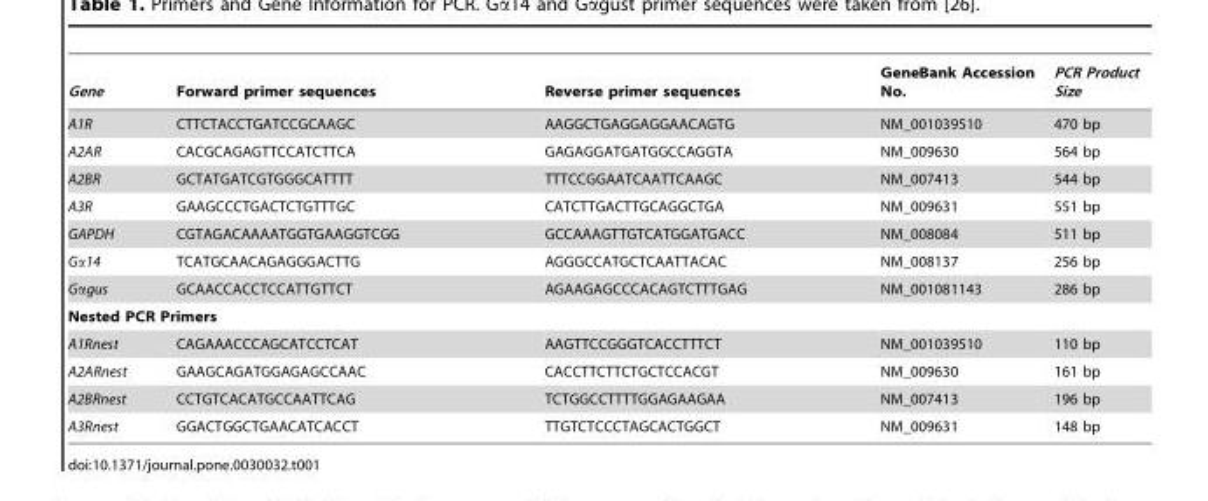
<table><thead><tr><td>Gene</td><td>Forward primer sequences</td><td>Reverse primer sequences</td><td>GeneBank Accession No.</td><td>PCR Product Size</td></tr></thead><tbody><tr><td>A1R</td><td>CTTCTACCTGATCCGCAAGC</td><td>AAGGCTGAGGAGGAACAGTG</td><td>NM_001039510</td><td>470 bp</td></tr><tr><td>A2AR</td><td>CACGCAGAGTTCCATCTTCA</td><td>GAGAGGATGATGGCCAGGTA</td><td>NM_009630</td><td>564 bp</td></tr><tr><td>A2BR</td><td>GCTATGATCGTGGGCATTTT</td><td>TTTCCGGAATCAATTCAAGC</td><td>NM_007413</td><td>544 bp</td></tr><tr><td>A3R</td><td>GAAGCCCTGACTCTGTTTGC</td><td>CATCTTGACTTGCAGGCTGA</td><td>NM_009631</td><td>551 bp</td></tr><tr><td>GAPDH</td><td>CGTAGACAAAATGGTGAAGGTCGG</td><td>GCCAAAGTTGTCATGGATGACC</td><td>NM_008084</td><td>511 bp</td></tr><tr><td>Gα14</td><td>TCATGCAACAGAGGGACTTG</td><td>AGGGCCATGCTCAATTACAC</td><td>NM_008137</td><td>256 bp</td></tr><tr><td>Gαgus</td><td>GCAACCACCTCCATTGTTCT</td><td>AGAAGAGCCCACAGTCTTTGAG</td><td>NM_001081143</td><td>286 bp</td></tr><tr><td colspan="5">Nested PCR Primers</td></tr><tr><td>A1Rnest</td><td>CAGAAACCCAGCATCCTCAT</td><td>AAGTTCCGGGTCACCTTTCT</td><td>NM_001039510</td><td>110 bp</td></tr><tr><td>A2ARnest</td><td>GAAGCAGATGGAGAGCCAAC</td><td>CACCTTCTTCTGCTCCACGT</td><td>NM_009630</td><td>161 bp</td></tr><tr><td>A2BRnest</td><td>CCTGTCACATGCCAATTCAG</td><td>TCTGGCCTTTTGGAGAAGAA</td><td>NM_007413</td><td>196 bp</td></tr><tr><td>A3Rnest</td><td>GGACTGGCTGAACATCACCT</td><td>TTGTCTCCCTAGCACTGGCT</td><td>NM_009631</td><td>148 bp</td></tr></tbody></table>